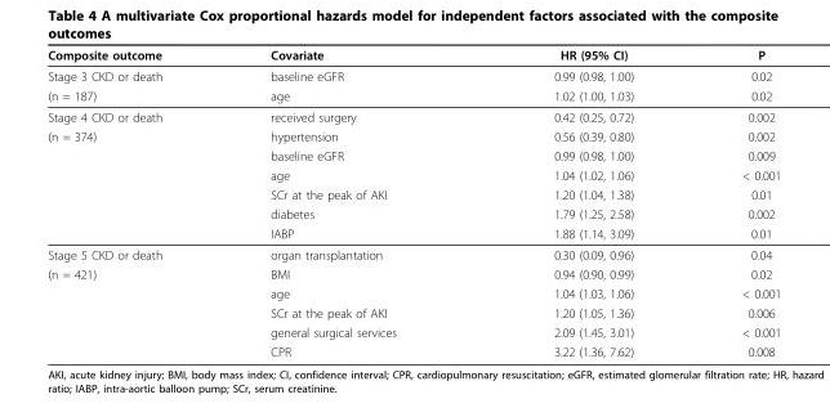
<table><thead><tr><td>Composite outcome</td><td>Covariate</td><td>HR (95% CI)</td><td>P</td></tr></thead><tbody><tr><td>Stage 3 CKD or death</td><td>baseline eGFR</td><td>0.99 (0.98, 1.00)</td><td>0.02</td></tr><tr><td>(n = 187)</td><td>age</td><td>1.02 (1.00, 1.03)</td><td>0.02</td></tr><tr><td>Stage 4 CKD or death</td><td>received surgery</td><td>0.42 (0.25, 0.72)</td><td>0.002</td></tr><tr><td rowspan="6">(n = 374)</td><td>hypertension</td><td>0.56 (0.39, 0.80)</td><td>0.002</td></tr><tr><td>baseline eGFR</td><td>0.99 (0.98, 1.00)</td><td>0.009</td></tr><tr><td>age</td><td>1.04 (1.02, 1.06)</td><td>&lt; 0.001</td></tr><tr><td>SCr at the peak of AKI</td><td>1.20 (1.04, 1.38)</td><td>0.01</td></tr><tr><td>diabetes</td><td>1.79 (1.25, 2.58)</td><td>0.002</td></tr><tr><td>IABP</td><td>1.88 (1.14, 3.09)</td><td>0.01</td></tr><tr><td>Stage 5 CKD or death</td><td>organ transplantation</td><td>0.30 (0.09, 0.96)</td><td>0.04</td></tr><tr><td rowspan="5">(n = 421)</td><td>BMI</td><td>0.94 (0.90, 0.99)</td><td>0.02</td></tr><tr><td>age</td><td>1.04 (1.03, 1.06)</td><td>&lt; 0.001</td></tr><tr><td>SCr at the peak of AKI</td><td>1.20 (1.05, 1.36)</td><td>0.006</td></tr><tr><td>general surgical services</td><td>2.09 (1.45, 3.01)</td><td>&lt; 0.001</td></tr><tr><td>CPR</td><td>3.22 (1.36, 7.62)</td><td>0.008</td></tr></tbody></table>